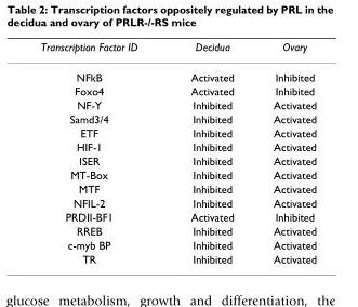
<table><thead><tr><td>Transcription Factor ID</td><td>Decidua</td><td>Ovary</td></tr></thead><tbody><tr><td>NFkB</td><td>Activated</td><td>Inhibited</td></tr><tr><td>Foxo4</td><td>Activated</td><td>Inhibited</td></tr><tr><td>NF-Y</td><td>Inhibited</td><td>Activated</td></tr><tr><td>Samd3/4</td><td>Inhibited</td><td>Activated</td></tr><tr><td>ETF</td><td>Inhibited</td><td>Activated</td></tr><tr><td>HIF-1</td><td>Inhibited</td><td>Activated</td></tr><tr><td>ISER</td><td>Inhibited</td><td>Activated</td></tr><tr><td>MT-Box</td><td>Inhibited</td><td>Activated</td></tr><tr><td>MTF</td><td>Inhibited</td><td>Activated</td></tr><tr><td>NFIL-2</td><td>Inhibited</td><td>Activated</td></tr><tr><td>PRDII-BF1</td><td>Activated</td><td>Inhibited</td></tr><tr><td>RREB</td><td>Inhibited</td><td>Activated</td></tr><tr><td>c-myb BP</td><td>Inhibited</td><td>Activated</td></tr><tr><td>TR</td><td>Inhibited</td><td>Activated</td></tr></tbody></table>